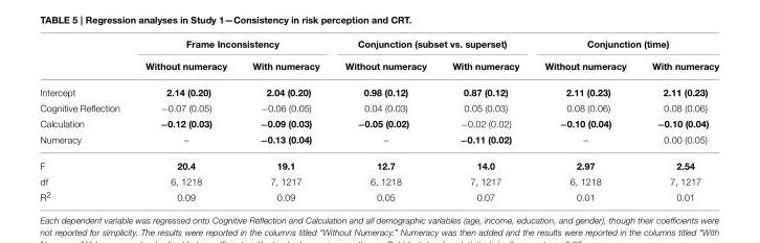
<table><thead><tr><td rowspan="2"></td><td colspan="2">Frame Inconsistency</td><td colspan="2">Conjunction (subset vs. superset)</td><td colspan="2">Conjunction (time)</td></tr><tr><td>Without numeracy</td><td>With numeracy</td><td>Without numeracy</td><td>With numeracy</td><td>Without numeracy</td><td>With numeracy</td></tr></thead><tbody><tr><td>Intercept</td><td>2.14 (0.20)</td><td>2.04 (0.20)</td><td>0.98 (0.12)</td><td>0.87 (0.12)</td><td>2.11 (0.23)</td><td>2.11 (0.23)</td></tr><tr><td>Cognitive Reflection</td><td>−0.07 (0.05)</td><td>−0.06 (0.05)</td><td>0.04 (0.03)</td><td>0.05 (0.03)</td><td>0.08 (0.06)</td><td>0.08 (0.06)</td></tr><tr><td>Calculation</td><td>−0.12 (0.03)</td><td>−0.09 (0.03)</td><td>−0.05 (0.02)</td><td>−0.02 (0.02)</td><td>−0.10 (0.04)</td><td>−0.10 (0.04)</td></tr><tr><td>Numeracy</td><td>–</td><td>−0.13 (0.04)</td><td>–</td><td>−0.11 (0.02)</td><td>–</td><td>0.00 (0.05)</td></tr><tr><td>F</td><td>20.4</td><td>19.1</td><td>12.7</td><td>14.0</td><td>2.97</td><td>2.54</td></tr><tr><td>df</td><td>6, 1218</td><td>7, 1217</td><td>6, 1218</td><td>7, 1217</td><td>6, 1218</td><td>7, 1217</td></tr><tr><td>R<sup>2</sup></td><td>0.09</td><td>0.09</td><td>0.05</td><td>0.07</td><td>0.01</td><td>0.01</td></tr></tbody></table>